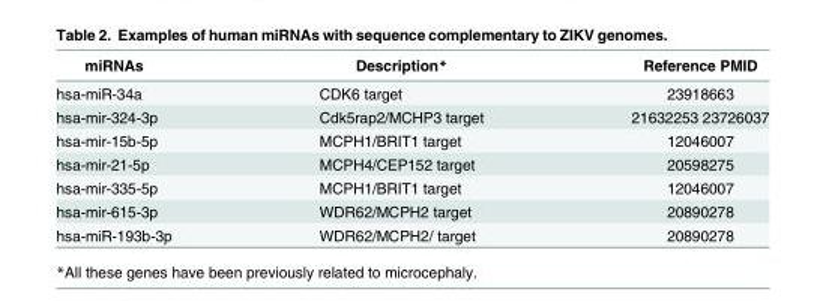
<table><thead><tr><td>miRNAs</td><td>Description*</td><td>Reference PMID</td></tr></thead><tbody><tr><td>hsa-miR-34a</td><td>CDK6 target</td><td>23918663</td></tr><tr><td>hsa-mir-324-3p</td><td>Cdk5rap2/MCHP3 target</td><td>21632253 23726037</td></tr><tr><td>hsa-mir-15b-5p</td><td>MCPH1/BRIT1 target</td><td>12046007</td></tr><tr><td>hsa-mir-21-5p</td><td>MCPH4/CEP152 target</td><td>20598275</td></tr><tr><td>hsa-mir-335-5p</td><td>MCPH1/BRIT1 target</td><td>12046007</td></tr><tr><td>hsa-mir-615-3p</td><td>WDR62/MCPH2 target</td><td>20890278</td></tr><tr><td>hsa-miR-193b-3p</td><td>WDR62/MCPH2/ target</td><td>20890278</td></tr></tbody></table>